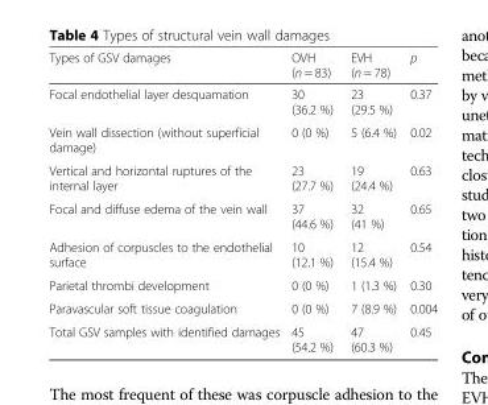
<table><thead><tr><td>Types of GSV damages</td><td>OVH (n = 83)</td><td>EVH (n = 78)</td><td>р</td></tr></thead><tbody><tr><td>Focal endothelial layer desquamation</td><td>30 (36.2 %)</td><td>23 (29.5 %)</td><td>0.37</td></tr><tr><td>Vein wall dissection (without superficial damage)</td><td>0 (0 %)</td><td>5 (6.4 %)</td><td>0.02</td></tr><tr><td>Vertical and horizontal ruptures of the internal layer</td><td>23 (27.7 %)</td><td>19 (24.4 %)</td><td>0.63</td></tr><tr><td>Focal and diffuse edema of the vein wall</td><td>37 (44.6 %)</td><td>32 (41 %)</td><td>0.65</td></tr><tr><td>Adhesion of corpuscles to the endothelial surface</td><td>10 (12.1 %)</td><td>12 (15.4 %)</td><td>0.54</td></tr><tr><td>Parietal thrombi development</td><td>0 (0 %)</td><td>1 (1.3 %)</td><td>0.30</td></tr><tr><td>Paravascular soft tissue coagulation</td><td>0 (0 %)</td><td>7 (8.9 %)</td><td>0.004</td></tr><tr><td>Total GSV samples with identified damages</td><td>45 (54.2 %)</td><td>47 (60.3 %)</td><td>0.45</td></tr></tbody></table>